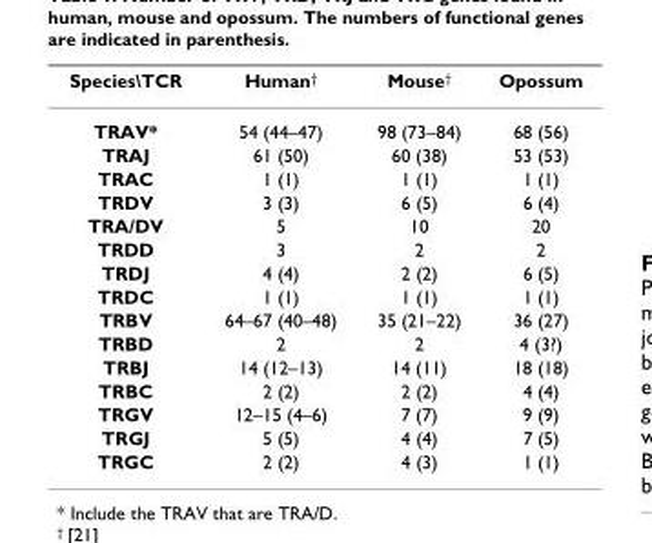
<table><thead><tr><td>Species\TCR</td><td>Human<sup>†</sup></td><td>Mouse<sup>†</sup></td><td>Opossum</td></tr></thead><tbody><tr><td>TRAV*</td><td>54 (44–47)</td><td>98 (73–84)</td><td>68 (56)</td></tr><tr><td>TRAJ</td><td>61 (50)</td><td>60 (38)</td><td>53 (53)</td></tr><tr><td>TRAC</td><td>1 (1)</td><td>1 (1)</td><td>1 (1)</td></tr><tr><td>TRDV</td><td>3 (3)</td><td>6 (5)</td><td>6 (4)</td></tr><tr><td>TRA/DV</td><td>5</td><td>10</td><td>20</td></tr><tr><td>TRDD</td><td>3</td><td>2</td><td>2</td></tr><tr><td>TRDJ</td><td>4 (4)</td><td>2 (2)</td><td>6 (5)</td></tr><tr><td>TRDC</td><td>1 (1)</td><td>1 (1)</td><td>1 (1)</td></tr><tr><td>TRBV</td><td>64–67 (40–48)</td><td>35 (21–22)</td><td>36 (27)</td></tr><tr><td>TRBD</td><td>2</td><td>2</td><td>4 (3?)</td></tr><tr><td>TRBJ</td><td>14 (12–13)</td><td>14 (11)</td><td>18 (18)</td></tr><tr><td>TRBC</td><td>2 (2)</td><td>2 (2)</td><td>4 (4)</td></tr><tr><td>TRGV</td><td>12–15 (4–6)</td><td>7 (7)</td><td>9 (9)</td></tr><tr><td>TRGJ</td><td>5 (5)</td><td>4 (4)</td><td>7 (5)</td></tr><tr><td>TRGC</td><td>2 (2)</td><td>4 (3)</td><td>1 (1)</td></tr></tbody></table>